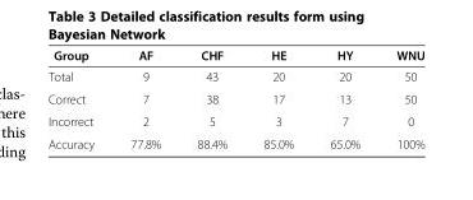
<table><thead><tr><td>Group</td><td>AF</td><td>CHF</td><td>HE</td><td>HY</td><td>WNU</td></tr></thead><tbody><tr><td>Total</td><td>9</td><td>43</td><td>20</td><td>20</td><td>50</td></tr><tr><td>Correct</td><td>7</td><td>38</td><td>17</td><td>13</td><td>50</td></tr><tr><td>Incorrect</td><td>2</td><td>5</td><td>3</td><td>7</td><td>0</td></tr><tr><td>Accuracy</td><td>77.8%</td><td>88.4%</td><td>85.0%</td><td>65.0%</td><td>100%</td></tr></tbody></table>